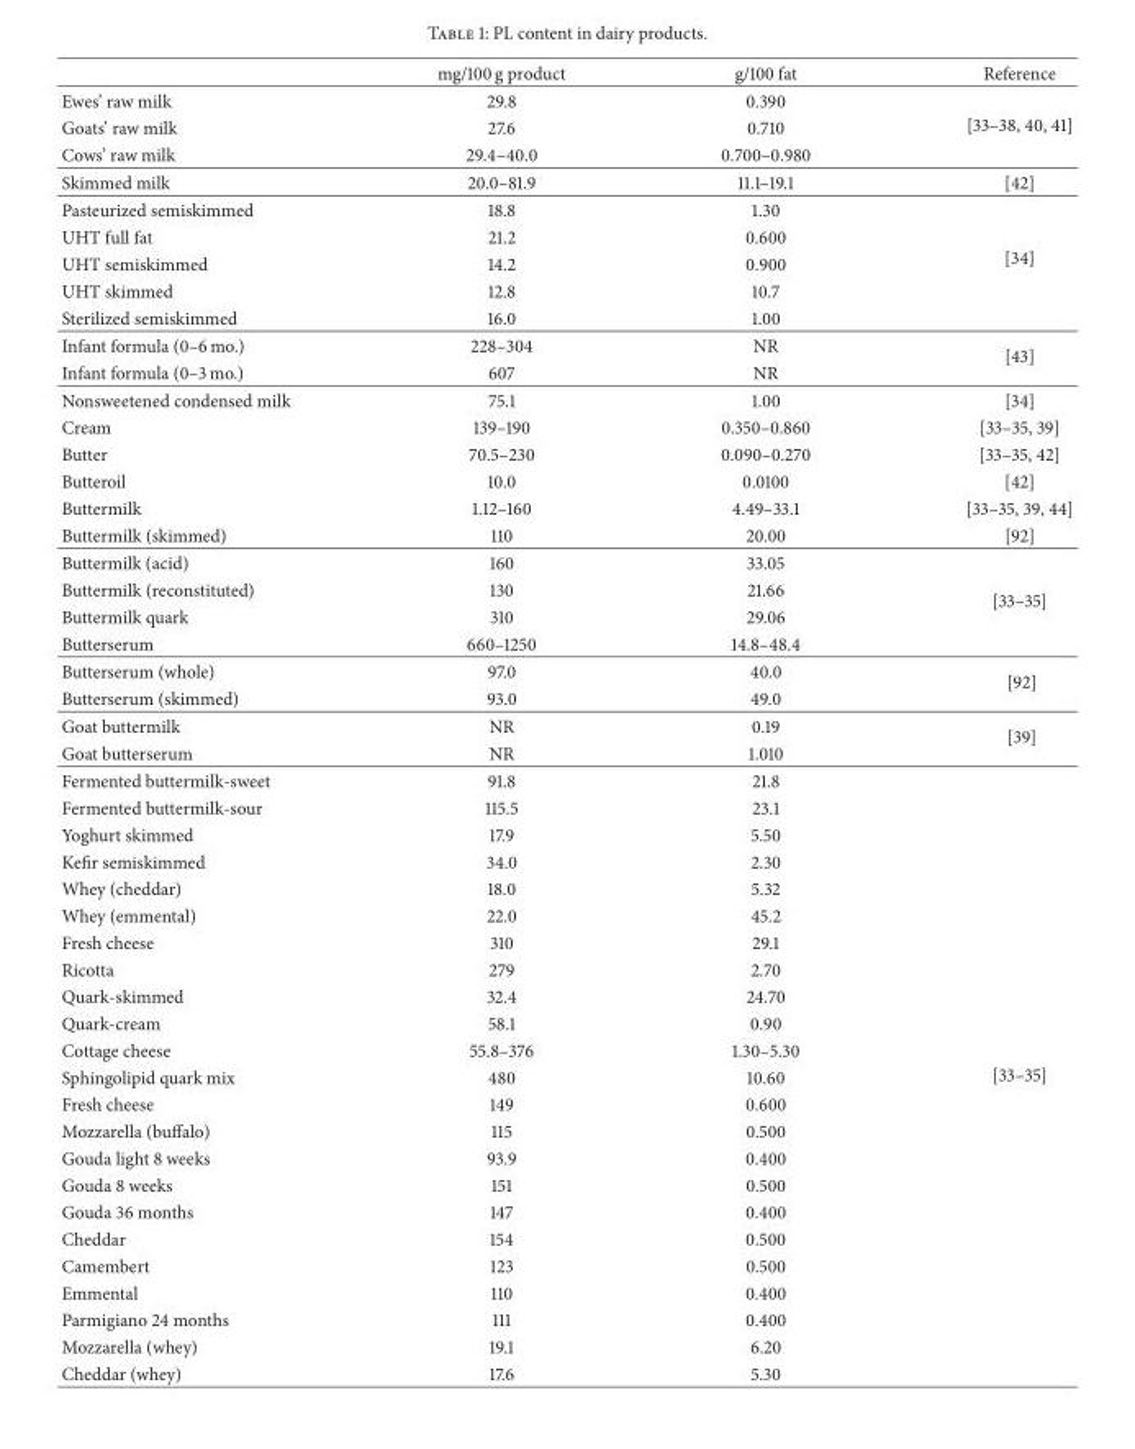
<table><thead><tr><td></td><td>mg/100 g product</td><td>g/100 fat</td><td>Reference</td></tr></thead><tbody><tr><td>Ewes’ raw milk</td><td>29.8</td><td>0.390</td><td rowspan="3">[33–38, 40, 41]</td></tr><tr><td>Goats’ raw milk</td><td>27.6</td><td>0.710</td></tr><tr><td>Cows’ raw milk</td><td>29.4–40.0</td><td>0.700–0.980</td></tr><tr><td>Skimmed milk</td><td>20.0–81.9</td><td>11.1–19.1</td><td>[42]</td></tr><tr><td>Pasteurized semiskimmed</td><td>18.8</td><td>1.30</td><td rowspan="5">[34]</td></tr><tr><td>UHT full fat</td><td>21.2</td><td>0.600</td></tr><tr><td>UHT semiskimmed</td><td>14.2</td><td>0.900</td></tr><tr><td>UHT skimmed</td><td>12.8</td><td>10.7</td></tr><tr><td>Sterilized semiskimmed</td><td>16.0</td><td>1.00</td></tr><tr><td>Infant formula (0–6 mo.)</td><td>228–304</td><td>NR</td><td rowspan="2">[43]</td></tr><tr><td>Infant formula (0–3 mo.)</td><td>607</td><td>NR</td></tr><tr><td>Nonsweetened condensed milk</td><td>75.1</td><td>1.00</td><td>[34]</td></tr><tr><td>Cream</td><td>139–190</td><td>0.350–0.860</td><td>[33–35, 39]</td></tr><tr><td>Butter</td><td>70.5–230</td><td>0.090–0.270</td><td>[33–35, 42]</td></tr><tr><td>Butteroil</td><td>10.0</td><td>0.0100</td><td>[42]</td></tr><tr><td>Buttermilk</td><td>1.12–160</td><td>4.49–33.1</td><td>[33–35, 39, 44]</td></tr><tr><td>Buttermilk (skimmed)</td><td>110</td><td>20.00</td><td>[92]</td></tr><tr><td>Buttermilk (acid)</td><td>160</td><td>33.05</td><td rowspan="4">[33–35]</td></tr><tr><td>Buttermilk (reconstituted)</td><td>130</td><td>21.66</td></tr><tr><td>Buttermilk quark</td><td>310</td><td>29.06</td></tr><tr><td>Butterserum</td><td>660–1250</td><td>14.8–48.4</td></tr><tr><td>Butterserum (whole)</td><td>97.0</td><td>40.0</td><td rowspan="2">[92]</td></tr><tr><td>Butterserum (skimmed)</td><td>93.0</td><td>49.0</td></tr><tr><td>Goat buttermilk</td><td>NR</td><td>0.19</td><td rowspan="2">[39]</td></tr><tr><td>Goat butterserum</td><td>NR</td><td>1.010</td></tr><tr><td>Fermented buttermilk-sweet</td><td>91.8</td><td>21.8</td><td rowspan="23">[33–35]</td></tr><tr><td>Fermented buttermilk-sour</td><td>115.5</td><td>23.1</td></tr><tr><td>Yoghurt skimmed</td><td>17.9</td><td>5.50</td></tr><tr><td>Kefir semiskimmed</td><td>34.0</td><td>2.30</td></tr><tr><td>Whey (cheddar)</td><td>18.0</td><td>5.32</td></tr><tr><td>Whey (emmental)</td><td>22.0</td><td>45.2</td></tr><tr><td>Fresh cheese</td><td>310</td><td>29.1</td></tr><tr><td>Ricotta</td><td>279</td><td>2.70</td></tr><tr><td>Quark-skimmed</td><td>32.4</td><td>24.70</td></tr><tr><td>Quark-cream</td><td>58.1</td><td>0.90</td></tr><tr><td>Cottage cheese</td><td>55.8–376</td><td>1.30–5.30</td></tr><tr><td>Sphingolipid quark mix</td><td>480</td><td>10.60</td></tr><tr><td>Fresh cheese</td><td>149</td><td>0.600</td></tr><tr><td>Mozzarella (buffalo)</td><td>115</td><td>0.500</td></tr><tr><td>Gouda light 8 weeks</td><td>93.9</td><td>0.400</td></tr><tr><td>Gouda 8 weeks</td><td>151</td><td>0.500</td></tr><tr><td>Gouda 36 months</td><td>147</td><td>0.400</td></tr><tr><td>Cheddar</td><td>154</td><td>0.500</td></tr><tr><td>Camembert</td><td>123</td><td>0.500</td></tr><tr><td>Emmental</td><td>110</td><td>0.400</td></tr><tr><td>Parmigiano 24 months</td><td>111</td><td>0.400</td></tr><tr><td>Mozzarella (whey)</td><td>19.1</td><td>6.20</td></tr><tr><td>Cheddar (whey)</td><td>17.6</td><td>5.30</td></tr></tbody></table>